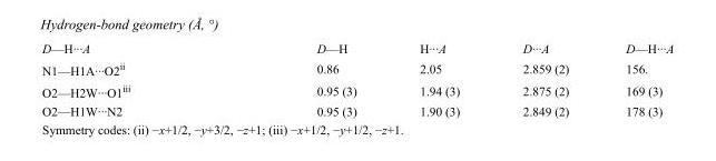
<table><tbody><tr><td>D—H···A</td><td>D—H</td><td>H···A</td><td>D···A</td><td>D—H···A</td></tr><tr><td>N1—H1A···O2<sup>ii</sup></td><td>0.86</td><td>2.05</td><td>2.859 (2)</td><td>156.</td></tr><tr><td>O2—H2W···O1<sup>iii</sup></td><td>0.95 (3)</td><td>1.94 (3)</td><td>2.875 (2)</td><td>169 (3)</td></tr><tr><td>O2—H1W···N2</td><td>0.95 (3)</td><td>1.90 (3)</td><td>2.849 (2)</td><td>178 (3)</td></tr></tbody></table>